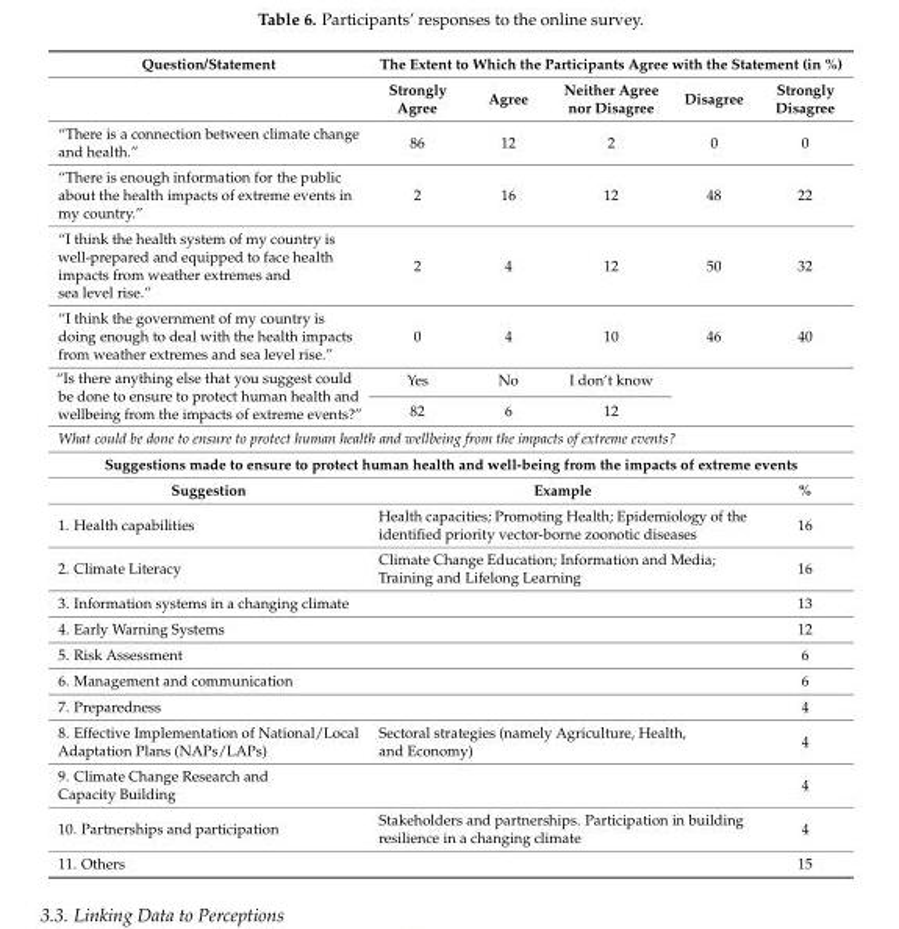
<table><tbody><tr><td rowspan="2">Question/Statement</td><td colspan="5">The Extent to Which the Participants Agree with the Statement (in %)</td></tr><tr><td>Strongly Agree</td><td>Agree</td><td>Neither Agree nor Disagree</td><td>Disagree</td><td>Strongly Disagree</td></tr><tr><td>“There is a connection between climate change and health.”</td><td>86</td><td>12</td><td>2</td><td>0</td><td>0</td></tr><tr><td>“There is enough information for the public about the health impacts of extreme events in my country.”</td><td>2</td><td>16</td><td>12</td><td>48</td><td>22</td></tr><tr><td>“I think the health system of my country is well-prepared and equipped to face health impacts from weather extremes and sea level rise.”</td><td>2</td><td>4</td><td>12</td><td>50</td><td>32</td></tr><tr><td>“I think the government of my country is doing enough to deal with the health impacts from weather extremes and sea level rise.”</td><td>0</td><td>4</td><td>10</td><td>46</td><td>40</td></tr><tr><td rowspan="2">“Is there anything else that you suggest could be done to ensure to protect human health and wellbeing from the impacts of extreme events?”</td><td>Yes</td><td>No</td><td>I don’t know</td><td rowspan="2" colspan="2"></td></tr><tr><td>82</td><td>6</td><td>12</td></tr><tr><td colspan="6">What could be done to ensure to protect human health and wellbeing from the impacts of extreme events?</td></tr><tr><td colspan="6">Suggestions made to ensure to protect human health and well-being from the impacts of extreme events</td></tr><tr><td>Suggestion</td><td colspan="4">Example</td><td>%</td></tr><tr><td>1. Health capabilities</td><td colspan="4">Health capacities; Promoting Health; Epidemiology of the identified priority vector-borne zoonotic diseases</td><td>16</td></tr><tr><td>2. Climate Literacy</td><td colspan="4">Climate Change Education; Information and Media; Training and Lifelong Learning</td><td>16</td></tr><tr><td>3. Information systems in a changing climate</td><td colspan="4"></td><td>13</td></tr><tr><td>4. Early Warning Systems</td><td colspan="4"></td><td>12</td></tr><tr><td>5. Risk Assessment</td><td colspan="4"></td><td>6</td></tr><tr><td>6. Management and communication</td><td colspan="4"></td><td>6</td></tr><tr><td>7. Preparedness</td><td colspan="4"></td><td>4</td></tr><tr><td>8. Effective Implementation of National/Local Adaptation Plans (NAPs/LAPs)</td><td colspan="4">Sectoral strategies (namely Agriculture, Health, and Economy)</td><td>4</td></tr><tr><td>9. Climate Change Research and Capacity Building</td><td colspan="4"></td><td>4</td></tr><tr><td>10. Partnerships and participation</td><td colspan="4">Stakeholders and partnerships. Participation in building resilience in a changing climate</td><td>4</td></tr><tr><td>11. Others</td><td colspan="4"></td><td>15</td></tr></tbody></table>